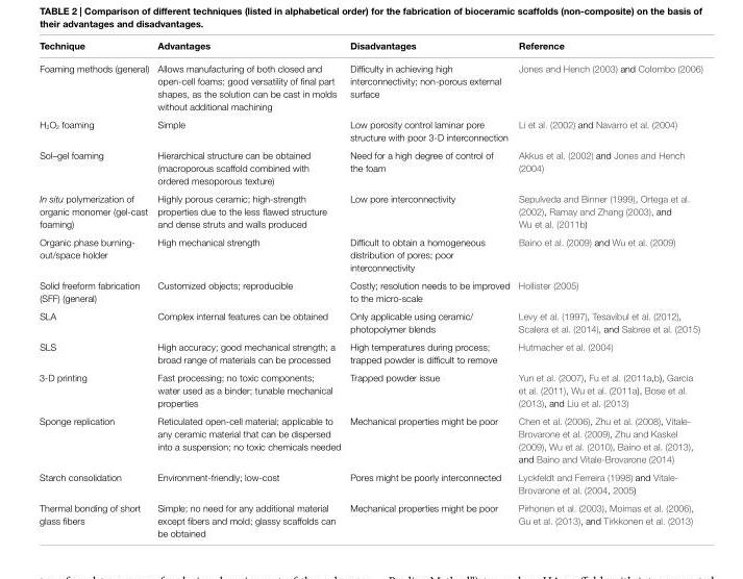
<table><thead><tr><td>Technique</td><td>Advantages</td><td>Disadvantages</td><td>Reference</td></tr></thead><tbody><tr><td>Foaming methods (general)</td><td>Allows manufacturing of both closed and open-cell foams; good versatility of final part shapes, as the solution can be cast in molds without additional machining</td><td>Difficulty in achieving high interconnectivity; non-porous external surface</td><td>Jones and Hench (2003) and Colombo (2006)</td></tr><tr><td>H<sub>2</sub>O<sub>2</sub> foaming</td><td>Simple</td><td>Low porosity control laminar pore structure with poor 3-D interconnection</td><td>Li et al. (2002) and Navarro et al. (2004)</td></tr><tr><td>Sol–gel foaming</td><td>Hierarchical structure can be obtained (macroporous scaffold combined with ordered mesoporous texture)</td><td>Need for a high degree of control of the foam</td><td>Akkus et al. (2002) and Jones and Hench (2004)</td></tr><tr><td>In situ polymerization of organic monomer (gel-cast foaming)</td><td>Highly porous ceramic; high-strength properties due to the less flawed structure and dense struts and walls produced</td><td>Low pore interconnectivity</td><td>Sepulveda and Binner (1999), Ortega et al. (2002), Ramay and Zhang (2003), and Wu et al. (2011b)</td></tr><tr><td>Organic phase burning- out/space holder</td><td>High mechanical strength</td><td>Difficult to obtain a homogeneous distribution of pores; poor interconnectivity</td><td>Baino et al. (2009) and Wu et al. (2009)</td></tr><tr><td>Solid freeform fabrication (SFF) (general)</td><td>Customized objects; reproducible</td><td>Costly; resolution needs to be improved to the micro-scale</td><td>Hollister (2005)</td></tr><tr><td>SLA</td><td>Complex internal features can be obtained</td><td>Only applicable using ceramic/ photopolymer blends</td><td>Levy et al. (1997), Tesavibul et al. (2012), Scalera et al. (2014), and Sabree et al. (2015)</td></tr><tr><td>SLS</td><td>High accuracy; good mechanical strength; a broad range of materials can be processed</td><td>High temperatures during process; trapped powder is difficult to remove</td><td>Hutmacher et al. (2004)</td></tr><tr><td>3-D printing</td><td>Fast processing; no toxic components; water used as a binder; tunable mechanical properties</td><td>Trapped powder issue</td><td>Yun et al. (2007), Fu et al. (2011a,b), Garcia et al. (2011), Wu et al. (2011a), Bose et al. (2013), and Liu et al. (2013)</td></tr><tr><td>Sponge replication</td><td>Reticulated open-cell material; applicable to any ceramic material that can be dispersed into a suspension; no toxic chemicals needed</td><td>Mechanical properties might be poor</td><td>Chen et al. (2006), Zhu et al. (2008), Vitale- Brovarone et al. (2009), Zhu and Kaskel (2009), Wu et al. (2010), Baino et al. (2013), and Baino and Vitale-Brovarone (2014)</td></tr><tr><td>Starch consolidation</td><td>Environment-friendly; low-cost</td><td>Pores might be poorly interconnected</td><td>Lyckfeldt and Ferreira (1998) and Vitale- Brovarone et al. (2004, 2005)</td></tr><tr><td>Thermal bonding of short glass fibers</td><td>Simple; no need for any additional material except fibers and mold; glassy scaffolds can be obtained</td><td>Mechanical properties might be poor</td><td>Pirhonen et al. (2003), Moimas et al. (2006), Gu et al. (2013), and Tirkkonen et al. (2013)</td></tr></tbody></table>